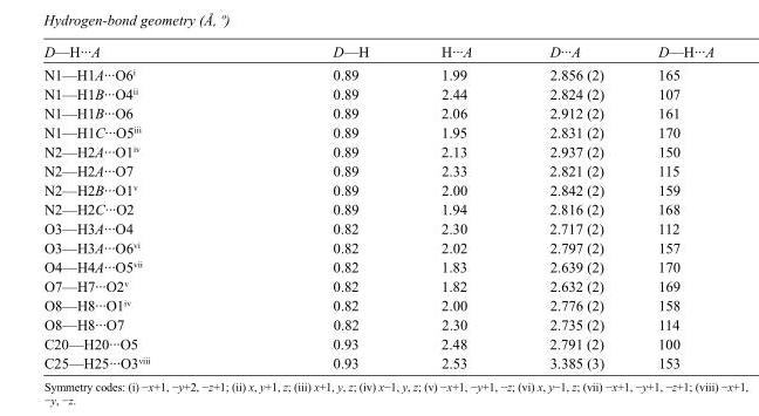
<table><tbody><tr><td>D—H···A</td><td>D—H</td><td>H···A</td><td>D···A</td><td>D—H···A</td></tr><tr><td>N1—H1A···O6<sup>i</sup></td><td>0.89</td><td>1.99</td><td>2.856 (2)</td><td>165</td></tr><tr><td>N1—H1B···O4<sup>ii</sup></td><td>0.89</td><td>2.44</td><td>2.824 (2)</td><td>107</td></tr><tr><td>N1—H1B···O6</td><td>0.89</td><td>2.06</td><td>2.912 (2)</td><td>161</td></tr><tr><td>N1—H1C···O5<sup>iii</sup></td><td>0.89</td><td>1.95</td><td>2.831 (2)</td><td>170</td></tr><tr><td>N2—H2A···O1<sup>iv</sup></td><td>0.89</td><td>2.13</td><td>2.937 (2)</td><td>150</td></tr><tr><td>N2—H2A···O7</td><td>0.89</td><td>2.33</td><td>2.821 (2)</td><td>115</td></tr><tr><td>N2—H2B···O1<sup>v</sup></td><td>0.89</td><td>2.00</td><td>2.842 (2)</td><td>159</td></tr><tr><td>N2—H2C···O2</td><td>0.89</td><td>1.94</td><td>2.816 (2)</td><td>168</td></tr><tr><td>O3—H3A···O4</td><td>0.82</td><td>2.30</td><td>2.717 (2)</td><td>112</td></tr><tr><td>O3—H3A···O6<sup>vi</sup></td><td>0.82</td><td>2.02</td><td>2.797 (2)</td><td>157</td></tr><tr><td>O4—H4A···O5<sup>vii</sup></td><td>0.82</td><td>1.83</td><td>2.639 (2)</td><td>170</td></tr><tr><td>O7—H7···O2<sup>v</sup></td><td>0.82</td><td>1.82</td><td>2.632 (2)</td><td>169</td></tr><tr><td>O8—H8···O1<sup>iv</sup></td><td>0.82</td><td>2.00</td><td>2.776 (2)</td><td>158</td></tr><tr><td>O8—H8···O7</td><td>0.82</td><td>2.30</td><td>2.735 (2)</td><td>114</td></tr><tr><td>C20—H20···O5</td><td>0.93</td><td>2.48</td><td>2.791 (2)</td><td>100</td></tr><tr><td>C25—H25···O3<sup>viii</sup></td><td>0.93</td><td>2.53</td><td>3.385 (3)</td><td>153</td></tr></tbody></table>